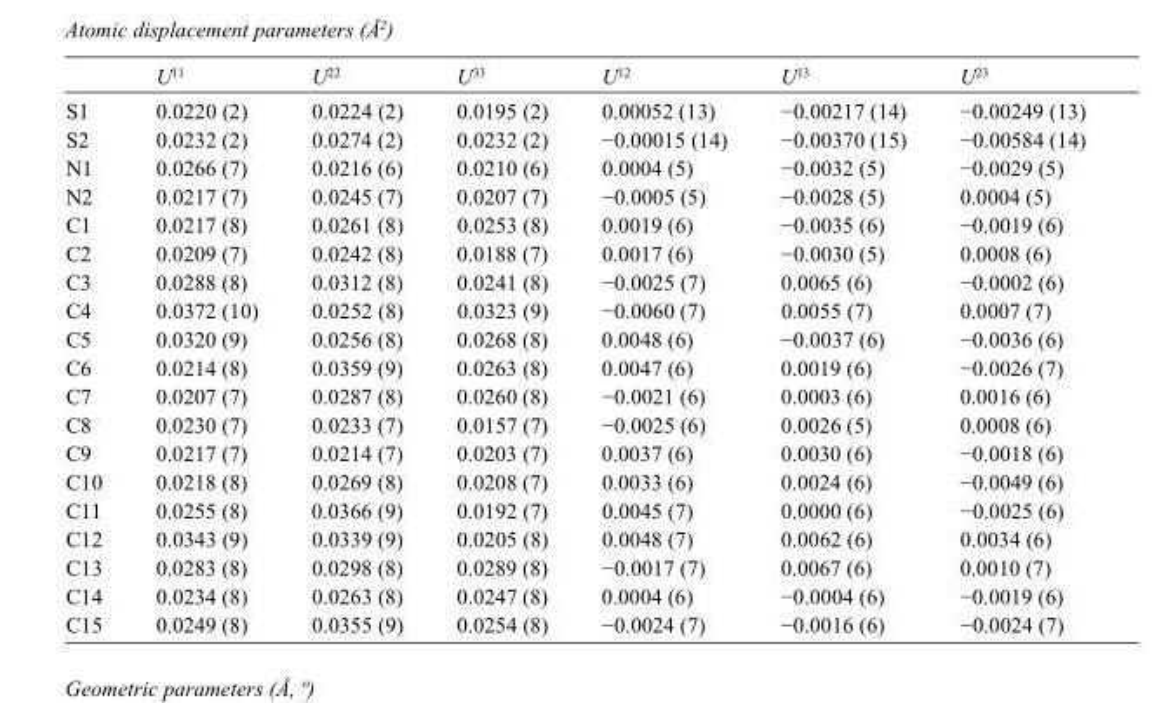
<table><thead><tr><td></td><td>U<sup>11</sup></td><td>U<sup>22</sup></td><td>U<sup>33</sup></td><td>U<sup>12</sup></td><td>U<sup>13</sup></td><td>U<sup>23</sup></td></tr></thead><tbody><tr><td>S1</td><td>0.0220 (2)</td><td>0.0224 (2)</td><td>0.0195 (2)</td><td>0.00052 (13)</td><td>−0.00217 (14)</td><td>−0.00249 (13)</td></tr><tr><td>S2</td><td>0.0232 (2)</td><td>0.0274 (2)</td><td>0.0232 (2)</td><td>−0.00015 (14)</td><td>−0.00370 (15)</td><td>−0.00584 (14)</td></tr><tr><td>N1</td><td>0.0266 (7)</td><td>0.0216 (6)</td><td>0.0210 (6)</td><td>0.0004 (5)</td><td>−0.0032 (5)</td><td>−0.0029 (5)</td></tr><tr><td>N2</td><td>0.0217 (7)</td><td>0.0245 (7)</td><td>0.0207 (7)</td><td>−0.0005 (5)</td><td>−0.0028 (5)</td><td>0.0004 (5)</td></tr><tr><td>C1</td><td>0.0217 (8)</td><td>0.0261 (8)</td><td>0.0253 (8)</td><td>0.0019 (6)</td><td>−0.0035 (6)</td><td>−0.0019 (6)</td></tr><tr><td>C2</td><td>0.0209 (7)</td><td>0.0242 (8)</td><td>0.0188 (7)</td><td>0.0017 (6)</td><td>−0.0030 (5)</td><td>0.0008 (6)</td></tr><tr><td>C3</td><td>0.0288 (8)</td><td>0.0312 (8)</td><td>0.0241 (8)</td><td>−0.0025 (7)</td><td>0.0065 (6)</td><td>−0.0002 (6)</td></tr><tr><td>C4</td><td>0.0372 (10)</td><td>0.0252 (8)</td><td>0.0323 (9)</td><td>−0.0060 (7)</td><td>0.0055 (7)</td><td>0.0007 (7)</td></tr><tr><td>C5</td><td>0.0320 (9)</td><td>0.0256 (8)</td><td>0.0268 (8)</td><td>0.0048 (6)</td><td>−0.0037 (6)</td><td>−0.0036 (6)</td></tr><tr><td>C6</td><td>0.0214 (8)</td><td>0.0359 (9)</td><td>0.0263 (8)</td><td>0.0047 (6)</td><td>0.0019 (6)</td><td>−0.0026 (7)</td></tr><tr><td>C7</td><td>0.0207 (7)</td><td>0.0287 (8)</td><td>0.0260 (8)</td><td>−0.0021 (6)</td><td>0.0003 (6)</td><td>0.0016 (6)</td></tr><tr><td>C8</td><td>0.0230 (7)</td><td>0.0233 (7)</td><td>0.0157 (7)</td><td>−0.0025 (6)</td><td>0.0026 (5)</td><td>0.0008 (6)</td></tr><tr><td>C9</td><td>0.0217 (7)</td><td>0.0214 (7)</td><td>0.0203 (7)</td><td>0.0037 (6)</td><td>0.0030 (6)</td><td>−0.0018 (6)</td></tr><tr><td>C10</td><td>0.0218 (8)</td><td>0.0269 (8)</td><td>0.0208 (7)</td><td>0.0033 (6)</td><td>0.0024 (6)</td><td>−0.0049 (6)</td></tr><tr><td>C11</td><td>0.0255 (8)</td><td>0.0366 (9)</td><td>0.0192 (7)</td><td>0.0045 (7)</td><td>0.0000 (6)</td><td>−0.0025 (6)</td></tr><tr><td>C12</td><td>0.0343 (9)</td><td>0.0339 (9)</td><td>0.0205 (8)</td><td>0.0048 (7)</td><td>0.0062 (6)</td><td>0.0034 (6)</td></tr><tr><td>C13</td><td>0.0283 (8)</td><td>0.0298 (8)</td><td>0.0289 (8)</td><td>−0.0017 (7)</td><td>0.0067 (6)</td><td>0.0010 (7)</td></tr><tr><td>C14</td><td>0.0234 (8)</td><td>0.0263 (8)</td><td>0.0247 (8)</td><td>0.0004 (6)</td><td>−0.0004 (6)</td><td>−0.0019 (6)</td></tr><tr><td>C15</td><td>0.0249 (8)</td><td>0.0355 (9)</td><td>0.0254 (8)</td><td>−0.0024 (7)</td><td>−0.0016 (6)</td><td>−0.0024 (7)</td></tr></tbody></table>